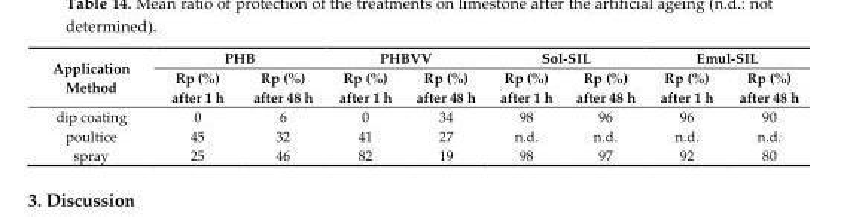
<table><thead><tr><td rowspan="2">Application Method</td><td colspan="2">PHB</td><td colspan="2">PHBVV</td><td colspan="2">Sol-SIL</td><td colspan="2">Emul-SIL</td></tr><tr><td>Rp (%) after 1 h</td><td>Rp (%) after 48 h</td><td>Rp (%) after 1 h</td><td>Rp (%) after 48 h</td><td>Rp (%) after 1 h</td><td>Rp (%) after 48 h</td><td>Rp (%) after 1 h</td><td>Rp (%) after 48 h</td></tr></thead><tbody><tr><td>dip coating</td><td>0</td><td>6</td><td>0</td><td>34</td><td>98</td><td>96</td><td>96</td><td>90</td></tr><tr><td>poultice</td><td>45</td><td>32</td><td>41</td><td>27</td><td>n.d.</td><td>n.d.</td><td>n.d.</td><td>n.d.</td></tr><tr><td>spray</td><td>25</td><td>46</td><td>82</td><td>19</td><td>98</td><td>97</td><td>92</td><td>80</td></tr></tbody></table>